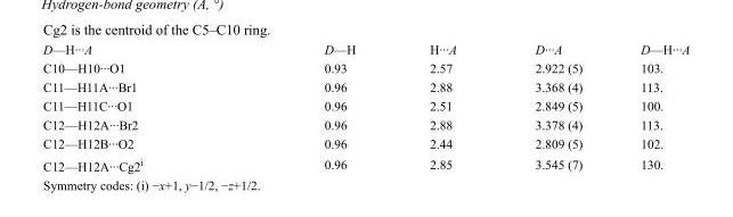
<table><tbody><tr><td>D—H···A</td><td>D—H</td><td>H···A</td><td>D···A</td><td>D—H···A</td></tr><tr><td>C10—H10···O1</td><td>0.93</td><td>2.57</td><td>2.922 (5)</td><td>103.</td></tr><tr><td>C11—H11A···Br1</td><td>0.96</td><td>2.88</td><td>3.368 (4)</td><td>113.</td></tr><tr><td>C11—H11C···O1</td><td>0.96</td><td>2.51</td><td>2.849 (5)</td><td>100.</td></tr><tr><td>C12—H12A···Br2</td><td>0.96</td><td>2.88</td><td>3.378 (4)</td><td>113.</td></tr><tr><td>C12—H12B···O2</td><td>0.96</td><td>2.44</td><td>2.809 (5)</td><td>102.</td></tr><tr><td>C12—H12A···Cg2<sup>i</sup></td><td>0.96</td><td>2.85</td><td>3.545 (7)</td><td>130.</td></tr></tbody></table>